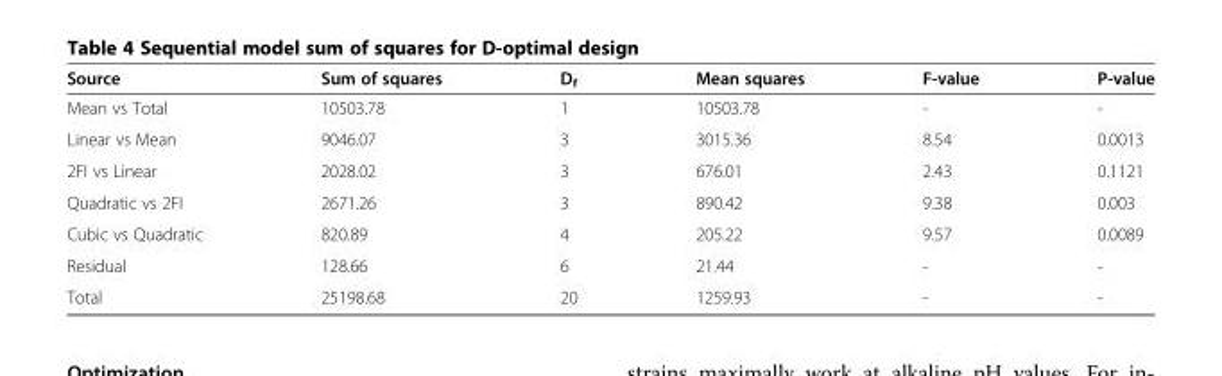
<table><thead><tr><td>Source</td><td>Sum of squares</td><td>D<sub>f</sub></td><td>Mean squares</td><td>F-value</td><td>P-value</td></tr></thead><tbody><tr><td>Mean vs Total</td><td>10503.78</td><td>1</td><td>10503.78</td><td>-</td><td>-</td></tr><tr><td>Linear vs Mean</td><td>9046.07</td><td>3</td><td>3015.36</td><td>8.54</td><td>0.0013</td></tr><tr><td>2FI vs Linear</td><td>2028.02</td><td>3</td><td>676.01</td><td>2.43</td><td>0.1121</td></tr><tr><td>Quadratic vs 2FI</td><td>2671.26</td><td>3</td><td>890.42</td><td>9.38</td><td>0.003</td></tr><tr><td>Cubic vs Quadratic</td><td>820.89</td><td>4</td><td>205.22</td><td>9.57</td><td>0.0089</td></tr><tr><td>Residual</td><td>128.66</td><td>6</td><td>21.44</td><td>-</td><td>-</td></tr><tr><td>Total</td><td>25198.68</td><td>20</td><td>1259.93</td><td>-</td><td>-</td></tr></tbody></table>